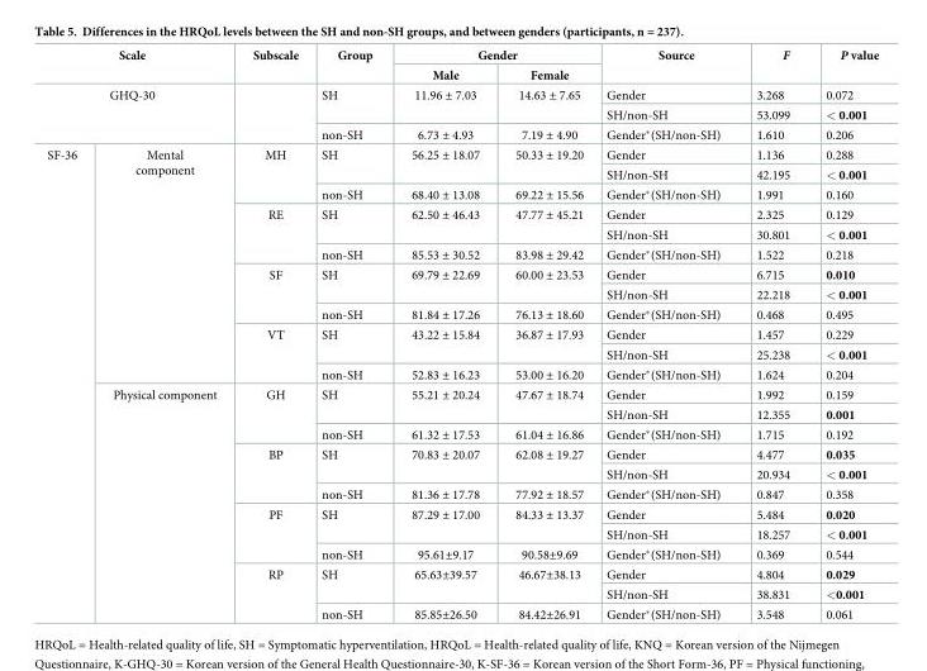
<table><thead><tr><td rowspan="2" colspan="2">Scale</td><td rowspan="2">Subscale</td><td rowspan="2">Group</td><td colspan="2">Gender</td><td rowspan="2">Source</td><td rowspan="2">F</td><td rowspan="2">P value</td></tr><tr><td>Male</td><td>Female</td></tr></thead><tbody><tr><td rowspan="3" colspan="2">GHQ-30</td><td rowspan="3"></td><td rowspan="2">SH</td><td rowspan="2">11.96 ± 7.03</td><td rowspan="2">14.63 ± 7.65</td><td>Gender</td><td>3.268</td><td>0.072</td></tr><tr><td>SH/non-SH</td><td>53.099</td><td>&lt; 0.001</td></tr><tr><td>non-SH</td><td>6.73 ± 4.93</td><td>7.19 ± 4.90</td><td>Gender*(SH/non-SH)</td><td>1.610</td><td>0.206</td></tr><tr><td rowspan="24">SF-36</td><td rowspan="12">Mental component</td><td rowspan="3">MH</td><td rowspan="2">SH</td><td rowspan="2">56.25 ± 18.07</td><td rowspan="2">50.33 ± 19.20</td><td>Gender</td><td>1.136</td><td>0.288</td></tr><tr><td>SH/non-SH</td><td>42.195</td><td>&lt; 0.001</td></tr><tr><td>non-SH</td><td>68.40 ± 13.08</td><td>69.22 ± 15.56</td><td>Gender*(SH/non-SH)</td><td>1.991</td><td>0.160</td></tr><tr><td rowspan="3">RE</td><td rowspan="2">SH</td><td rowspan="2">62.50 ± 46.43</td><td rowspan="2">47.77 ± 45.21</td><td>Gender</td><td>2.325</td><td>0.129</td></tr><tr><td>SH/non-SH</td><td>30.801</td><td>&lt; 0.001</td></tr><tr><td>non-SH</td><td>85.53 ± 30.52</td><td>83.98 ± 29.42</td><td>Gender*(SH/non-SH)</td><td>1.522</td><td>0.218</td></tr><tr><td rowspan="3">SF</td><td rowspan="2">SH</td><td rowspan="2">69.79 ± 22.69</td><td rowspan="2">60.00 ± 23.53</td><td>Gender</td><td>6.715</td><td>0.010</td></tr><tr><td>SH/non-SH</td><td>22.218</td><td>&lt; 0.001</td></tr><tr><td>non-SH</td><td>81.84 ± 17.26</td><td>76.13 ± 18.60</td><td>Gender*(SH/non-SH)</td><td>0.468</td><td>0.495</td></tr><tr><td rowspan="3">VT</td><td rowspan="2">SH</td><td rowspan="2">43.22 ± 15.84</td><td rowspan="2">36.87 ± 17.93</td><td>Gender</td><td>1.457</td><td>0.229</td></tr><tr><td>SH/non-SH</td><td>25.238</td><td>&lt; 0.001</td></tr><tr><td>non-SH</td><td>52.83 ± 16.23</td><td>53.00 ± 16.20</td><td>Gender*(SH/non-SH)</td><td>1.624</td><td>0.204</td></tr><tr><td rowspan="12">Physical component</td><td rowspan="3">GH</td><td rowspan="2">SH</td><td rowspan="2">55.21 ± 20.24</td><td rowspan="2">47.67 ± 18.74</td><td>Gender</td><td>1.992</td><td>0.159</td></tr><tr><td>SH/non-SH</td><td>12.355</td><td>0.001</td></tr><tr><td>non-SH</td><td>61.32 ± 17.53</td><td>61.04 ± 16.86</td><td>Gender*(SH/non-SH)</td><td>1.715</td><td>0.192</td></tr><tr><td rowspan="3">BP</td><td rowspan="2">SH</td><td rowspan="2">70.83 ± 20.07</td><td rowspan="2">62.08 ± 19.27</td><td>Gender</td><td>4.477</td><td>0.035</td></tr><tr><td>SH/non-SH</td><td>20.934</td><td>&lt; 0.001</td></tr><tr><td>non-SH</td><td>81.36 ± 17.78</td><td>77.92 ± 18.57</td><td>Gender*(SH/non-SH)</td><td>0.847</td><td>0.358</td></tr><tr><td rowspan="3">PF</td><td rowspan="2">SH</td><td rowspan="2">87.29 ± 17.00</td><td rowspan="2">84.33 ± 13.37</td><td>Gender</td><td>5.484</td><td>0.020</td></tr><tr><td>SH/non-SH</td><td>18.257</td><td>&lt; 0.001</td></tr><tr><td>non-SH</td><td>95.61±9.17</td><td>90.58±9.69</td><td>Gender*(SH/non-SH)</td><td>0.369</td><td>0.544</td></tr><tr><td rowspan="3">RP</td><td rowspan="2">SH</td><td rowspan="2">65.63±39.57</td><td rowspan="2">46.67±38.13</td><td>Gender</td><td>4.804</td><td>0.029</td></tr><tr><td>SH/non-SH</td><td>38.831</td><td>&lt;0.001</td></tr><tr><td>non-SH</td><td>85.85±26.50</td><td>84.42±26.91</td><td>Gender*(SH/non-SH)</td><td>3.548</td><td>0.061</td></tr></tbody></table>